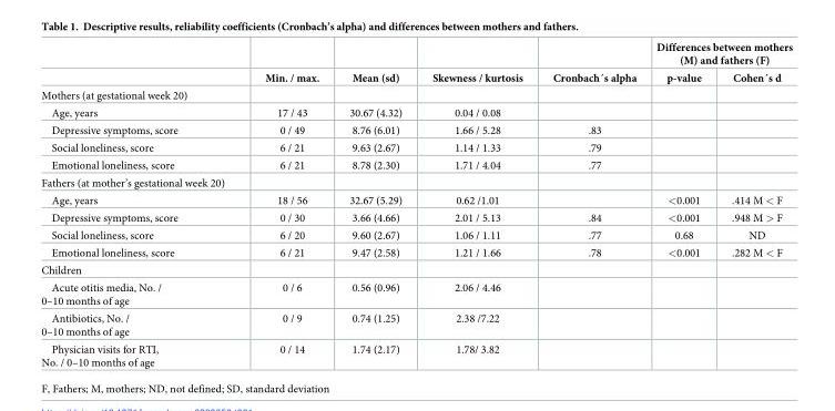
<table><thead><tr><td rowspan="2"></td><td rowspan="2">Min. / max.</td><td rowspan="2">Mean (sd)</td><td rowspan="2">Skewness / kurtosis</td><td rowspan="2">Cronbach´s alpha</td><td colspan="2">Differences between mothers (M) and fathers (F)</td></tr><tr><td>p-value</td><td>Cohen´s d</td></tr></thead><tbody><tr><td colspan="7">Mothers (at gestational week 20)</td></tr><tr><td>Age, years</td><td>17 / 43</td><td>30.67 (4.32)</td><td>0.04 / 0.08</td><td></td><td></td><td></td></tr><tr><td>Depressive symptoms, score</td><td>0 / 49</td><td>8.76 (6.01)</td><td>1.66 / 5.28</td><td>.83</td><td></td><td></td></tr><tr><td>Social loneliness, score</td><td>6 / 21</td><td>9.63 (2.67)</td><td>1.14 / 1.33</td><td>.79</td><td></td><td></td></tr><tr><td>Emotional loneliness, score</td><td>6 / 21</td><td>8.78 (2.30)</td><td>1.71 / 4.04</td><td>.77</td><td></td><td></td></tr><tr><td colspan="7">Fathers (at mother’s gestational week 20)</td></tr><tr><td>Age, years</td><td>18 / 56</td><td>32.67 (5.29)</td><td>0.62 /1.01</td><td></td><td>&lt;0.001</td><td>.414 M &lt; F</td></tr><tr><td>Depressive symptoms, score</td><td>0 / 30</td><td>3.66 (4.66)</td><td>2.01 / 5.13</td><td>.84</td><td>&lt;0.001</td><td>.948 M &gt; F</td></tr><tr><td>Social loneliness, score</td><td>6 / 20</td><td>9.60 (2.67)</td><td>1.06 / 1.11</td><td>.77</td><td>0.68</td><td>ND</td></tr><tr><td>Emotional loneliness, score</td><td>6 / 21</td><td>9.47 (2.58)</td><td>1.21 / 1.66</td><td>.78</td><td>&lt;0.001</td><td>.282 M &lt; F</td></tr><tr><td colspan="7">Children</td></tr><tr><td>Acute otitis media, No. / 0–10 months of age</td><td>0 / 6</td><td>0.56 (0.96)</td><td>2.06 / 4.46</td><td></td><td></td><td></td></tr><tr><td>Antibiotics, No. / 0–10 months of age</td><td>0 / 9</td><td>0.74 (1.25)</td><td>2.38 /7.22</td><td></td><td></td><td></td></tr><tr><td>Physician visits for RTI, No. / 0–10 months of age</td><td>0 / 14</td><td>1.74 (2.17)</td><td>1.78/ 3.82</td><td></td><td></td><td></td></tr></tbody></table>